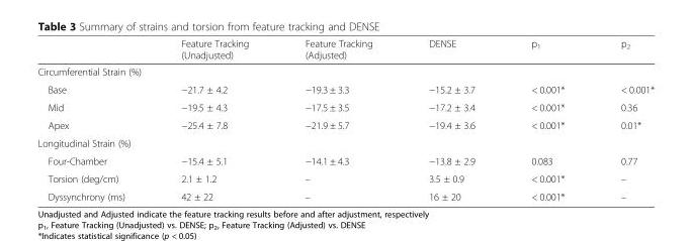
<table><thead><tr><td></td><td>Feature Tracking (Unadjusted)</td><td>Feature Tracking (Adjusted)</td><td>DENSE</td><td>p<sub>1</sub></td><td>p<sub>2</sub></td></tr></thead><tbody><tr><td colspan="6">Circumferential Strain (%)</td></tr><tr><td>Base</td><td>−21.7 ± 4.2</td><td>−19.3 ± 3.3</td><td>−15.2 ± 3.7</td><td>&lt; 0.001*</td><td>&lt; 0.001*</td></tr><tr><td>Mid</td><td>−19.5 ± 4.3</td><td>−17.5 ± 3.5</td><td>−17.2 ± 3.4</td><td>&lt; 0.001*</td><td>0.36</td></tr><tr><td>Apex</td><td>−25.4 ± 7.8</td><td>−21.9 ± 5.7</td><td>−19.4 ± 3.6</td><td>&lt; 0.001*</td><td>0.01*</td></tr><tr><td colspan="6">Longitudinal Strain (%)</td></tr><tr><td>Four-Chamber</td><td>−15.4 ± 5.1</td><td>−14.1 ± 4.3</td><td>−13.8 ± 2.9</td><td>0.083</td><td>0.77</td></tr><tr><td>Torsion (deg/cm)</td><td>2.1 ± 1.2</td><td>–</td><td>3.5 ± 0.9</td><td>&lt; 0.001*</td><td>–</td></tr><tr><td>Dyssynchrony (ms)</td><td>42 ± 22</td><td>–</td><td>16 ± 20</td><td>&lt; 0.001*</td><td>–</td></tr></tbody></table>